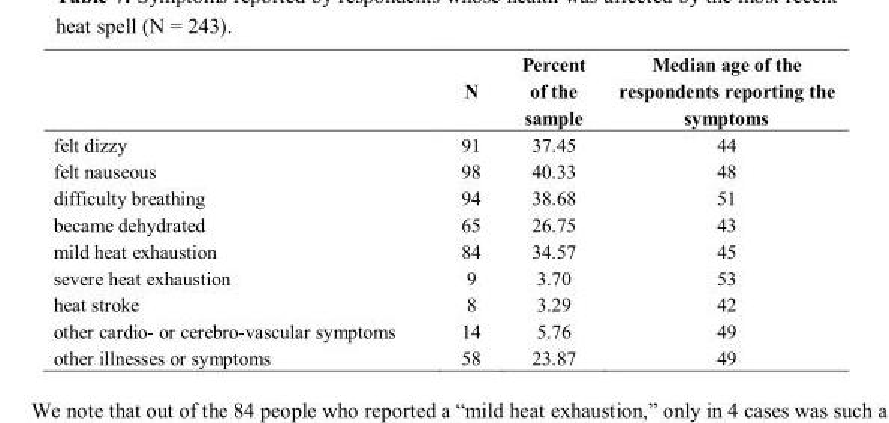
<table><thead><tr><td></td><td>N</td><td>Percent of the sample</td><td>Median age of the respondents reporting the symptoms</td></tr></thead><tbody><tr><td>felt dizzy</td><td>91</td><td>37.45</td><td>44</td></tr><tr><td>felt nauseous</td><td>98</td><td>40.33</td><td>48</td></tr><tr><td>difficulty breathing</td><td>94</td><td>38.68</td><td>51</td></tr><tr><td>became dehydrated</td><td>65</td><td>26.75</td><td>43</td></tr><tr><td>mild heat exhaustion</td><td>84</td><td>34.57</td><td>45</td></tr><tr><td>severe heat exhaustion</td><td>9</td><td>3.70</td><td>53</td></tr><tr><td>heat stroke</td><td>8</td><td>3.29</td><td>42</td></tr><tr><td>other cardio- or cerebro-vascular symptoms</td><td>14</td><td>5.76</td><td>49</td></tr><tr><td>other illnesses or symptoms</td><td>58</td><td>23.87</td><td>49</td></tr></tbody></table>